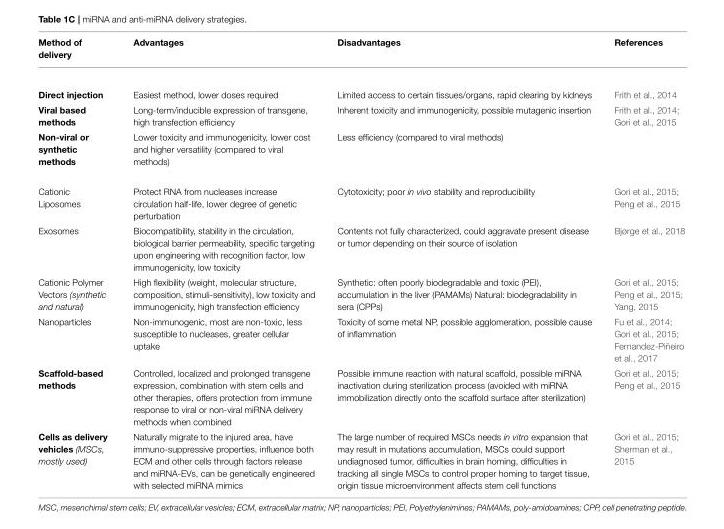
<table><thead><tr><td>Method of delivery</td><td>Advantages</td><td>Disadvantages</td><td>References</td></tr></thead><tbody><tr><td>Direct injection</td><td>Easiest method, lower doses required</td><td>Limited access to certain tissues/organs, rapid clearing by kidneys</td><td>Frith et al., 2014</td></tr><tr><td>Viral based methods</td><td>Long-term/inducible expression of transgene, high transfection efficiency</td><td>Inherent toxicity and immunogenicity, possible mutagenic insertion</td><td>Frith et al., 2014; Gori et al., 2015</td></tr><tr><td>Non-viral or synthetic methods</td><td>Lower toxicity and immunogenicity, lower cost and higher versatility (compared to viral methods)</td><td>Less efficiency (compared to viral methods)</td><td></td></tr><tr><td>Cationic Liposomes</td><td>Protect RNA from nucleases increase circulation half-life, lower degree of genetic perturbation</td><td>Cytotoxicity; poor in vivo stability and reproducibility</td><td>Gori et al., 2015; Peng et al., 2015</td></tr><tr><td>Exosomes</td><td>Biocompatibility, stability in the circulation, biological barrier permeability, specific targeting upon engineering with recognition factor, low immunogenicity, low toxicity</td><td>Contents not fully characterized, could aggravate present disease or tumor depending on their source of isolation</td><td>Bjørge et al., 2018</td></tr><tr><td>Cationic Polymer Vectors (synthetic and natural)</td><td>High flexibility (weight, molecular structure, composition, stimuli-sensitivity), low toxicity and immunogenicity, high transfection efficiency</td><td>Synthetic: often poorly biodegradable and toxic (PEI), accumulation in the liver (PAMAMs) Natural: biodegradability in sera (CPPs)</td><td>Gori et al., 2015; Peng et al., 2015; Yang, 2015</td></tr><tr><td>Nanoparticles</td><td>Non-immunogenic, most are non-toxic, less susceptible to nucleases, greater cellular uptake</td><td>Toxicity of some metal NP, possible agglomeration, possible cause of inflammation</td><td>Fu et al., 2014; Gori et al., 2015; Fernandez-Piñeiro et al., 2017</td></tr><tr><td>Scaffold-based methods</td><td>Controlled, localized and prolonged transgene expression, combination with stem cells and other therapies, offers protection from immune response to viral or non-viral miRNA delivery methods when combined</td><td>Possible immune reaction with natural scaffold, possible miRNA inactivation during sterilization process (avoided with miRNA immobilization directly onto the scaffold surface after sterilization)</td><td>Gori et al., 2015; Peng et al., 2015</td></tr><tr><td>Cells as delivery vehicles (MSCs, mostly used)</td><td>Naturally migrate to the injured area, have immuno-suppressive properties, influence both ECM and other cells through factors release and miRNA-EVs, can be genetically engineered with selected miRNA mimics</td><td>The large number of required MSCs needs in vitro expansion that may result in mutations accumulation, MSCs could support undiagnosed tumor, difficulties in brain homing, difficulties in tracking all single MSCs to control proper homing to target tissue, origin tissue microenvironment affects stem cell functions</td><td>Gori et al., 2015; Sherman et al., 2015</td></tr></tbody></table>